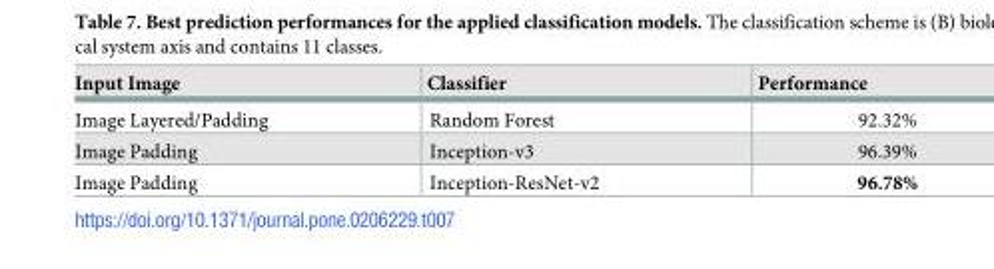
<table><thead><tr><td>Input Image</td><td>Classifier</td><td>Performance</td></tr></thead><tbody><tr><td>Image Layered/Padding</td><td>Random Forest</td><td>92.32%</td></tr><tr><td>Image Padding</td><td>Inception-v3</td><td>96.39%</td></tr><tr><td>Image Padding</td><td>Inception-ResNet-v2</td><td>96.78%</td></tr></tbody></table>